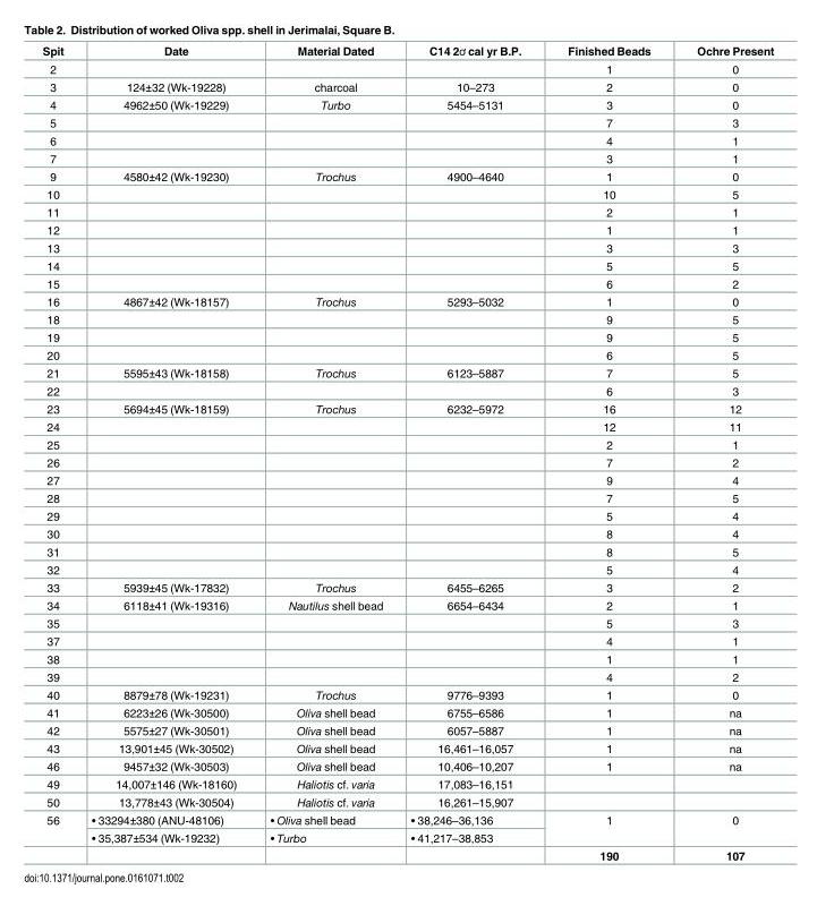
<table><thead><tr><td>Spit</td><td>Date</td><td>Material Dated</td><td>C14 2ơ cal yr B.P.</td><td>Finished Beads</td><td>Ochre Present</td></tr></thead><tbody><tr><td>2</td><td></td><td></td><td></td><td>1</td><td>0</td></tr><tr><td>3</td><td>124±32 (Wk-19228)</td><td>charcoal</td><td>10–273</td><td>2</td><td>0</td></tr><tr><td>4</td><td>4962±50 (Wk-19229)</td><td>Turbo</td><td>5454–5131</td><td>3</td><td>0</td></tr><tr><td>5</td><td></td><td></td><td></td><td>7</td><td>3</td></tr><tr><td>6</td><td></td><td></td><td></td><td>4</td><td>1</td></tr><tr><td>7</td><td></td><td></td><td></td><td>3</td><td>1</td></tr><tr><td>9</td><td>4580±42 (Wk-19230)</td><td>Trochus</td><td>4900–4640</td><td>1</td><td>0</td></tr><tr><td>10</td><td></td><td></td><td></td><td>10</td><td>5</td></tr><tr><td>11</td><td></td><td></td><td></td><td>2</td><td>1</td></tr><tr><td>12</td><td></td><td></td><td></td><td>1</td><td>1</td></tr><tr><td>13</td><td></td><td></td><td></td><td>3</td><td>3</td></tr><tr><td>14</td><td></td><td></td><td></td><td>5</td><td>5</td></tr><tr><td>15</td><td></td><td></td><td></td><td>6</td><td>2</td></tr><tr><td>16</td><td>4867±42 (Wk-18157)</td><td>Trochus</td><td>5293–5032</td><td>1</td><td>0</td></tr><tr><td>18</td><td></td><td></td><td></td><td>9</td><td>5</td></tr><tr><td>19</td><td></td><td></td><td></td><td>9</td><td>5</td></tr><tr><td>20</td><td></td><td></td><td></td><td>6</td><td>5</td></tr><tr><td>21</td><td>5595±43 (Wk-18158)</td><td>Trochus</td><td>6123–5887</td><td>7</td><td>5</td></tr><tr><td>22</td><td></td><td></td><td></td><td>6</td><td>3</td></tr><tr><td>23</td><td>5694±45 (Wk-18159)</td><td>Trochus</td><td>6232–5972</td><td>16</td><td>12</td></tr><tr><td>24</td><td></td><td></td><td></td><td>12</td><td>11</td></tr><tr><td>25</td><td></td><td></td><td></td><td>2</td><td>1</td></tr><tr><td>26</td><td></td><td></td><td></td><td>7</td><td>2</td></tr><tr><td>27</td><td></td><td></td><td></td><td>9</td><td>4</td></tr><tr><td>28</td><td></td><td></td><td></td><td>7</td><td>5</td></tr><tr><td>29</td><td></td><td></td><td></td><td>5</td><td>4</td></tr><tr><td>30</td><td></td><td></td><td></td><td>8</td><td>4</td></tr><tr><td>31</td><td></td><td></td><td></td><td>8</td><td>5</td></tr><tr><td>32</td><td></td><td></td><td></td><td>5</td><td>4</td></tr><tr><td>33</td><td>5939±45 (Wk-17832)</td><td>Trochus</td><td>6455–6265</td><td>3</td><td>2</td></tr><tr><td>34</td><td>6118±41 (Wk-19316)</td><td>Nautilus shell bead</td><td>6654–6434</td><td>2</td><td>1</td></tr><tr><td>35</td><td></td><td></td><td></td><td>5</td><td>3</td></tr><tr><td>37</td><td></td><td></td><td></td><td>4</td><td>1</td></tr><tr><td>38</td><td></td><td></td><td></td><td>1</td><td>1</td></tr><tr><td>39</td><td></td><td></td><td></td><td>4</td><td>2</td></tr><tr><td>40</td><td>8879±78 (Wk-19231)</td><td>Trochus</td><td>9776–9393</td><td>1</td><td>0</td></tr><tr><td>41</td><td>6223±26 (Wk-30500)</td><td>Oliva shell bead</td><td>6755–6586</td><td>1</td><td>na</td></tr><tr><td>42</td><td>5575±27 (Wk-30501)</td><td>Oliva shell bead</td><td>6057–5887</td><td>1</td><td>na</td></tr><tr><td>43</td><td>13,901±45 (Wk-30502)</td><td>Oliva shell bead</td><td>16,461–16,057</td><td>1</td><td>na</td></tr><tr><td>46</td><td>9457±32 (Wk-30503)</td><td>Oliva shell bead</td><td>10,406–10,207</td><td>1</td><td>na</td></tr><tr><td>49</td><td>14,007±146 (Wk-18160)</td><td>Haliotis cf. varia</td><td>17,083–16,151</td><td></td><td></td></tr><tr><td>50</td><td>13,778±43 (Wk-30504)</td><td>Haliotis cf. varia</td><td>16,261–15,907</td><td></td><td></td></tr><tr><td rowspan="3">56</td><td>• 33294±380 (ANU-48106)</td><td>• Oliva shell bead</td><td>• 38,246–36,136</td><td rowspan="2">1</td><td rowspan="2">0</td></tr><tr><td>• 35,387±534 (Wk-19232)</td><td>• Turbo</td><td>• 41,217–38,853</td></tr><tr><td></td><td></td><td></td><td>190</td><td>107</td></tr></tbody></table>